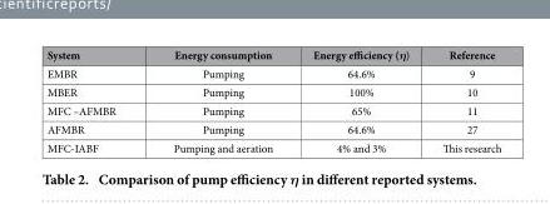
<table><thead><tr><td>System</td><td>Energy consumption</td><td>Energy efficiency (η)</td><td>Reference</td></tr></thead><tbody><tr><td>EMBR</td><td>Pumping</td><td>64.6%</td><td>9</td></tr><tr><td>MBER</td><td>Pumping</td><td>100%</td><td>10</td></tr><tr><td>MFC –AFMBR</td><td>Pumping</td><td>65%</td><td>11</td></tr><tr><td>AFMBR</td><td>Pumping</td><td>64.6%</td><td>27</td></tr><tr><td>MFC-IABF</td><td>Pumping and aeration</td><td>4% and 3%</td><td>This research</td></tr></tbody></table>